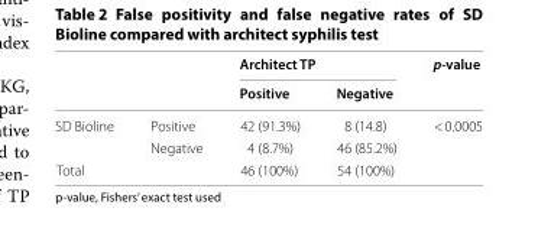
<table><thead><tr><td rowspan="2"></td><td rowspan="2"></td><td colspan="2">Architect TP</td><td rowspan="2">p-value</td></tr><tr><td>Positive</td><td>Negative</td></tr></thead><tbody><tr><td rowspan="2">SD Bioline</td><td>Positive</td><td>42 (91.3%)</td><td>8 (14.8)</td><td>&lt; 0.0005</td></tr><tr><td>Negative</td><td>4 (8.7%)</td><td>46 (85.2%)</td><td></td></tr><tr><td>Total</td><td></td><td>46 (100%)</td><td>54 (100%)</td><td></td></tr></tbody></table>